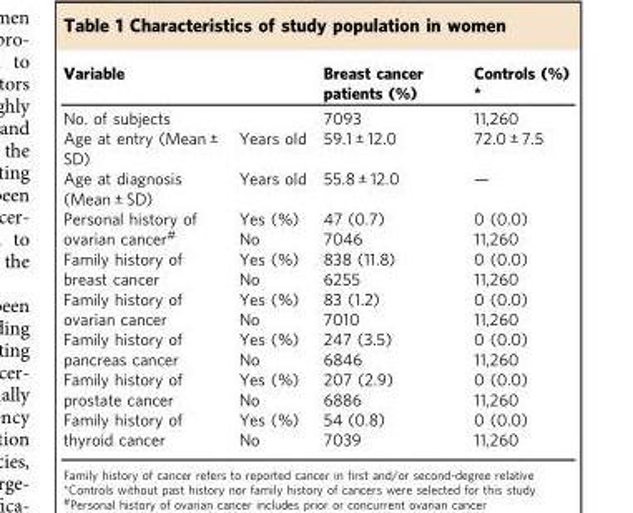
<table><thead><tr><td>Variable</td><td></td><td>Breast cancer patients (%)</td><td>Controls (%) *</td></tr></thead><tbody><tr><td>No. of subjects</td><td></td><td>7093</td><td>11,260</td></tr><tr><td>Age at entry (Mean ± SD)</td><td>Years old</td><td>59.1 ± 12.0</td><td>72.0 ± 7.5</td></tr><tr><td>Age at diagnosis (Mean ± SD)</td><td>Years old</td><td>55.8 ± 12.0</td><td>—</td></tr><tr><td rowspan="2">Personal history of ovarian cancer<sup>#</sup></td><td>Yes (%)</td><td>47 (0.7)</td><td>0 (0.0)</td></tr><tr><td>No</td><td>7046</td><td>11,260</td></tr><tr><td rowspan="2">Family history of breast cancer</td><td>Yes (%)</td><td>838 (11.8)</td><td>0 (0.0)</td></tr><tr><td>No</td><td>6255</td><td>11,260</td></tr><tr><td rowspan="2">Family history of ovarian cancer</td><td>Yes (%)</td><td>83 (1.2)</td><td>0 (0.0)</td></tr><tr><td>No</td><td>7010</td><td>11,260</td></tr><tr><td rowspan="2">Family history of pancreas cancer</td><td>Yes (%)</td><td>247 (3.5)</td><td>0 (0.0)</td></tr><tr><td>No</td><td>6846</td><td>11,260</td></tr><tr><td rowspan="2">Family history of prostate cancer</td><td>Yes (%)</td><td>207 (2.9)</td><td>0 (0.0)</td></tr><tr><td>No</td><td>6886</td><td>11,260</td></tr><tr><td rowspan="2">Family history of thyroid cancer</td><td>Yes (%)</td><td>54 (0.8)</td><td>0 (0.0)</td></tr><tr><td>No</td><td>7039</td><td>11,260</td></tr></tbody></table>